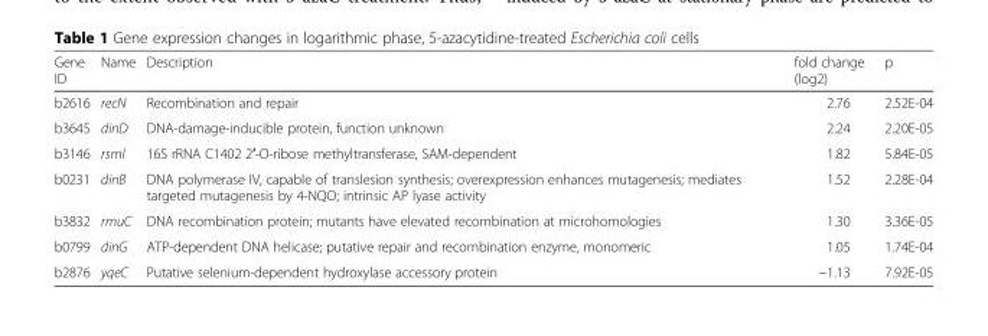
<table><thead><tr><td>Gene ID</td><td>Name</td><td>Description</td><td>fold change (log2)</td><td>p</td></tr></thead><tbody><tr><td>b2616</td><td>recN</td><td>Recombination and repair</td><td>2.76</td><td>2.52E-04</td></tr><tr><td>b3645</td><td>dinD</td><td>DNA-damage-inducible protein, function unknown</td><td>2.24</td><td>2.20E-05</td></tr><tr><td>b3146</td><td>rsmI</td><td>16S rRNA C1402 2′-O-ribose methyltransferase, SAM-dependent</td><td>1.82</td><td>5.84E-05</td></tr><tr><td>b0231</td><td>dinB</td><td>DNA polymerase IV, capable of translesion synthesis; overexpression enhances mutagenesis; mediates targeted mutagenesis by 4-NQO; intrinsic AP lyase activity</td><td>1.52</td><td>2.28E-04</td></tr><tr><td>b3832</td><td>rmuC</td><td>DNA recombination protein; mutants have elevated recombination at microhomologies</td><td>1.30</td><td>3.36E-05</td></tr><tr><td>b0799</td><td>dinG</td><td>ATP-dependent DNA helicase; putative repair and recombination enzyme, monomeric</td><td>1.05</td><td>1.74E-04</td></tr><tr><td>b2876</td><td>yqeC</td><td>Putative selenium-dependent hydroxylase accessory protein</td><td>−1.13</td><td>7.92E-05</td></tr></tbody></table>